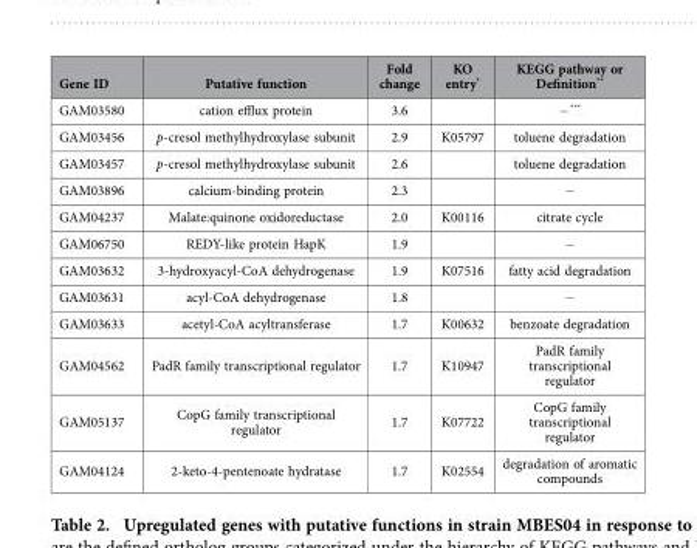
<table><thead><tr><td>Gene ID</td><td>Putative function</td><td>Fold change</td><td>KO entry*</td><td>KEGG pathway or Definition**</td></tr></thead><tbody><tr><td>GAM03580</td><td>cation efflux protein</td><td>3.6</td><td></td><td>− ***</td></tr><tr><td>GAM03456</td><td>p-cresol methylhydroxylase subunit</td><td>2.9</td><td>K05797</td><td>toluene degradation</td></tr><tr><td>GAM03457</td><td>p-cresol methylhydroxylase subunit</td><td>2.6</td><td></td><td>toluene degradation</td></tr><tr><td>GAM03896</td><td>calcium-binding protein</td><td>2.3</td><td></td><td>−</td></tr><tr><td>GAM04237</td><td>Malate:quinone oxidoreductase</td><td>2.0</td><td>K00116</td><td>citrate cycle</td></tr><tr><td>GAM06750</td><td>REDY-like protein HapK</td><td>1.9</td><td></td><td>−</td></tr><tr><td>GAM03632</td><td>3-hydroxyacyl-CoA dehydrogenase</td><td>1.9</td><td>K07516</td><td>fatty acid degradation</td></tr><tr><td>GAM03631</td><td>acyl-CoA dehydrogenase</td><td>1.8</td><td></td><td>−</td></tr><tr><td>GAM03633</td><td>acetyl-CoA acyltransferase</td><td>1.7</td><td>K00632</td><td>benzoate degradation</td></tr><tr><td>GAM04562</td><td>PadR family transcriptional regulator</td><td>1.7</td><td>K10947</td><td>PadR family transcriptional regulator</td></tr><tr><td>GAM05137</td><td>CopG family transcriptional regulator</td><td>1.7</td><td>K07722</td><td>CopG family transcriptional regulator</td></tr><tr><td>GAM04124</td><td>2-keto-4-pentenoate hydratase</td><td>1.7</td><td>K02554</td><td>degradation of aromatic compounds</td></tr></tbody></table>